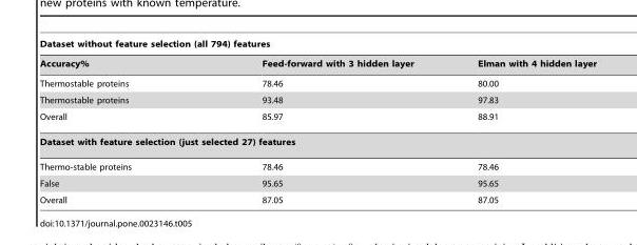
<table><thead><tr><td colspan="3">Dataset without feature selection (all 794) features</td></tr><tr><td>Accuracy%</td><td>Feed-forward with 3 hidden layer</td><td>Elman with 4 hidden layer</td></tr></thead><tbody><tr><td>Thermostable proteins</td><td>78.46</td><td>80.00</td></tr><tr><td>Thermostable proteins</td><td>93.48</td><td>97.83</td></tr><tr><td>Overall</td><td>85.97</td><td>88.91</td></tr><tr><td colspan="3">Dataset with feature selection (just selected 27) features</td></tr><tr><td>Thermo-stable proteins</td><td>78.46</td><td>78.46</td></tr><tr><td>False</td><td>95.65</td><td>95.65</td></tr><tr><td>Overall</td><td>87.05</td><td>87.05</td></tr></tbody></table>